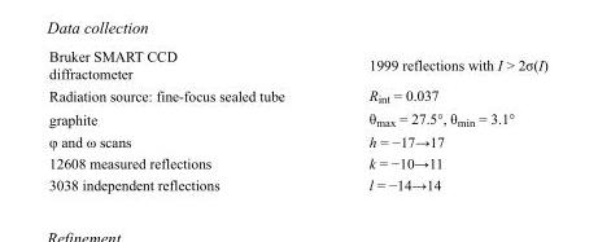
<table><tbody><tr><td>Bruker SMART CCD diffractometer</td><td>1999 reflections with I &gt; 2σ(I)</td></tr><tr><td>Radiation source: fine-focus sealed tube</td><td>R<sub>int</sub> = 0.037</td></tr><tr><td>graphite</td><td>θ<sub>max</sub> = 27.5°, θ<sub>min</sub> = 3.1°</td></tr><tr><td>φ and ω scans</td><td>h = −17→17</td></tr><tr><td>12608 measured reflections</td><td>k = −10→11</td></tr><tr><td>3038 independent reflections</td><td>l = −14→14</td></tr></tbody></table>